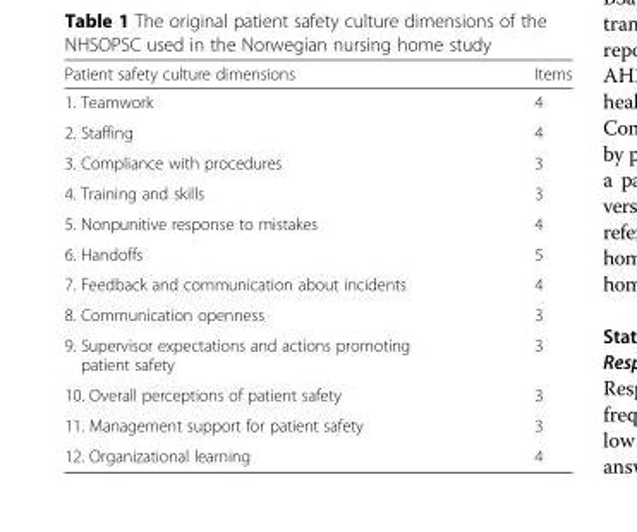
<table><thead><tr><td>Patient safety culture dimensions</td><td>Items</td></tr></thead><tbody><tr><td>1. Teamwork</td><td>4</td></tr><tr><td>2. Staffing</td><td>4</td></tr><tr><td>3. Compliance with procedures</td><td>3</td></tr><tr><td>4. Training and skills</td><td>3</td></tr><tr><td>5. Nonpunitive response to mistakes</td><td>4</td></tr><tr><td>6. Handoffs</td><td>5</td></tr><tr><td>7. Feedback and communication about incidents</td><td>4</td></tr><tr><td>8. Communication openness</td><td>3</td></tr><tr><td>9. Supervisor expectations and actions promoting patient safety</td><td>3</td></tr><tr><td>10. Overall perceptions of patient safety</td><td>3</td></tr><tr><td>11. Management support for patient safety</td><td>3</td></tr><tr><td>12. Organizational learning</td><td>4</td></tr></tbody></table>